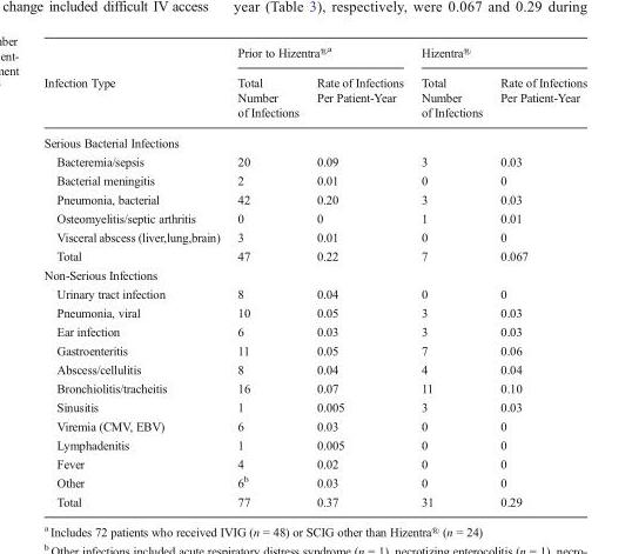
<table><thead><tr><td rowspan="2">Infection Type</td><td colspan="2">Prior to Hizentra®a</td><td colspan="2">Hizentra®</td></tr><tr><td>Total Number of Infections</td><td>Rate of Infections Per Patient-Year</td><td>Total Number of Infections</td><td>Rate of Infections Per Patient-Year</td></tr></thead><tbody><tr><td colspan="5">Serious Bacterial Infections</td></tr><tr><td>Bacteremia/sepsis</td><td>20</td><td>0.09</td><td>3</td><td>0.03</td></tr><tr><td>Bacterial meningitis</td><td>2</td><td>0.01</td><td>0</td><td>0</td></tr><tr><td>Pneumonia, bacterial</td><td>42</td><td>0.20</td><td>3</td><td>0.03</td></tr><tr><td>Osteomyelitis/septic arthritis</td><td>0</td><td>0</td><td>1</td><td>0.01</td></tr><tr><td>Visceral abscess (liver,lung,brain)</td><td>3</td><td>0.01</td><td>0</td><td>0</td></tr><tr><td>Total</td><td>47</td><td>0.22</td><td>7</td><td>0.067</td></tr><tr><td colspan="5">Non-Serious Infections</td></tr><tr><td>Urinary tract infection</td><td>8</td><td>0.04</td><td>0</td><td>0</td></tr><tr><td>Pneumonia, viral</td><td>10</td><td>0.05</td><td>3</td><td>0.03</td></tr><tr><td>Ear infection</td><td>6</td><td>0.03</td><td>3</td><td>0.03</td></tr><tr><td>Gastroenteritis</td><td>11</td><td>0.05</td><td>7</td><td>0.06</td></tr><tr><td>Abscess/cellulitis</td><td>8</td><td>0.04</td><td>4</td><td>0.04</td></tr><tr><td>Bronchiolitis/tracheitis</td><td>16</td><td>0.07</td><td>11</td><td>0.10</td></tr><tr><td>Sinusitis</td><td>1</td><td>0.005</td><td>3</td><td>0.03</td></tr><tr><td>Viremia (CMV, EBV)</td><td>6</td><td>0.03</td><td>0</td><td>0</td></tr><tr><td>Lymphadenitis</td><td>1</td><td>0.005</td><td>0</td><td>0</td></tr><tr><td>Fever</td><td>4</td><td>0.02</td><td>0</td><td>0</td></tr><tr><td>Other</td><td>6b</td><td>0.03</td><td>0</td><td>0</td></tr><tr><td>Total</td><td>77</td><td>0.37</td><td>31</td><td>0.29</td></tr></tbody></table>